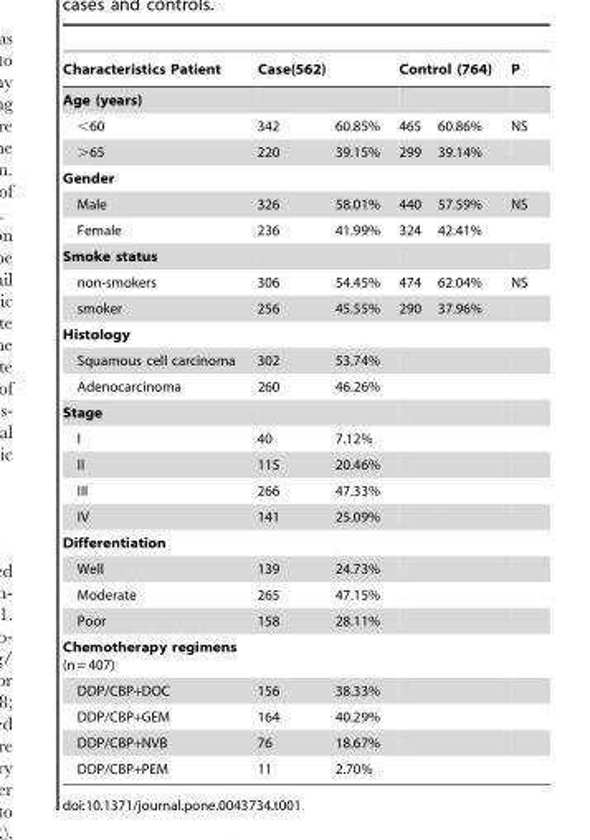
<table><thead><tr><td rowspan="2">Characteristics Patient Age (years)</td><td rowspan="2">Case(562)</td><td rowspan="2"></td><td colspan="2">Control (764)</td><td rowspan="2">P</td></tr><tr><td></td><td></td></tr></thead><tbody><tr><td>&lt;60</td><td>342</td><td>60.85%</td><td>465</td><td>60.86%</td><td>NS</td></tr><tr><td>&gt;65</td><td>220</td><td>39.15%</td><td>299</td><td>39.14%</td><td></td></tr><tr><td colspan="6">Gender</td></tr><tr><td>Male</td><td>326</td><td>58.01%</td><td>440</td><td>57.59%</td><td>NS</td></tr><tr><td>Female</td><td>236</td><td>41.99%</td><td>324</td><td>42.41%</td><td></td></tr><tr><td colspan="6">Smoke status</td></tr><tr><td>non-smokers</td><td>306</td><td>54.45%</td><td>474</td><td>62.04%</td><td>NS</td></tr><tr><td>smoker</td><td>256</td><td>45.55%</td><td>290</td><td>37.96%</td><td></td></tr><tr><td colspan="6">Histology</td></tr><tr><td>Squamous cell carcinoma</td><td>302</td><td>53.74%</td><td></td><td></td><td></td></tr><tr><td>Adenocarcinoma</td><td>260</td><td>46.26%</td><td></td><td></td><td></td></tr><tr><td colspan="6">Stage</td></tr><tr><td>I</td><td>40</td><td>7.12%</td><td></td><td></td><td></td></tr><tr><td>II</td><td>115</td><td>20.46%</td><td></td><td></td><td></td></tr><tr><td>III</td><td>266</td><td>47.33%</td><td></td><td></td><td></td></tr><tr><td>IV</td><td>141</td><td>25.09%</td><td></td><td></td><td></td></tr><tr><td colspan="6">Differentiation</td></tr><tr><td>Well</td><td>139</td><td>24.73%</td><td></td><td></td><td></td></tr><tr><td>Moderate</td><td>265</td><td>47.15%</td><td></td><td></td><td></td></tr><tr><td>Poor</td><td>158</td><td>28.11%</td><td></td><td></td><td></td></tr><tr><td colspan="6">Chemotherapy regimens (n = 407)</td></tr><tr><td>DDP/CBP+DOC</td><td>156</td><td>38.33%</td><td></td><td></td><td></td></tr><tr><td>DDP/CBP+GEM</td><td>164</td><td>40.29%</td><td></td><td></td><td></td></tr><tr><td>DDP/CBP+NVB</td><td>76</td><td>18.67%</td><td></td><td></td><td></td></tr><tr><td>DDP/CBP+PEM</td><td>11</td><td>2.70%</td><td></td><td></td><td></td></tr></tbody></table>